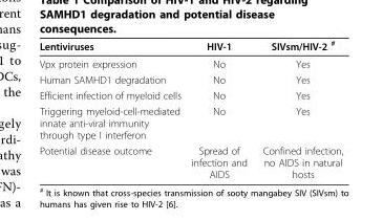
<table><thead><tr><td>Lentiviruses</td><td>HIV-1</td><td>SIVsm/HIV-2 <sup>#</sup></td></tr></thead><tbody><tr><td>Vpx protein expression</td><td>No</td><td>Yes</td></tr><tr><td>Human SAMHD1 degradation</td><td>No</td><td>Yes</td></tr><tr><td>Efficient infection of myeloid cells</td><td>No</td><td>Yes</td></tr><tr><td>Triggering myeloid-cell-mediated innate anti-viral immunity through type I interferon</td><td>No</td><td>Yes</td></tr><tr><td>Potential disease outcome</td><td>Spread of infection and AIDS</td><td>Confined infection, no AIDS in natural hosts</td></tr></tbody></table>